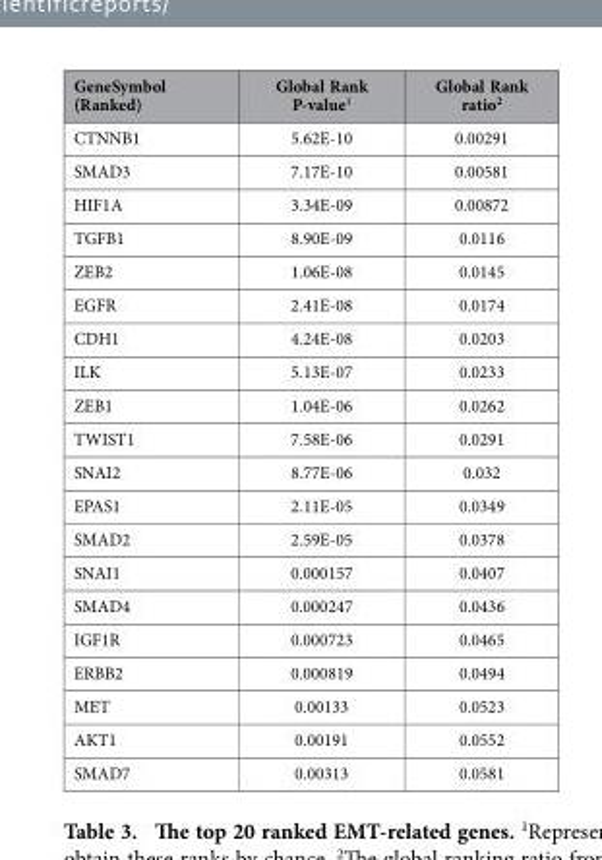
<table><thead><tr><td>GeneSymbol (Ranked)</td><td>Global Rank P-value<sup>1</sup></td><td>Global Rank ratio<sup>2</sup></td></tr></thead><tbody><tr><td>CTNNB1</td><td>5.62E-10</td><td>0.00291</td></tr><tr><td>SMAD3</td><td>7.17E-10</td><td>0.00581</td></tr><tr><td>HIF1A</td><td>3.34E-09</td><td>0.00872</td></tr><tr><td>TGFB1</td><td>8.90E-09</td><td>0.0116</td></tr><tr><td>ZEB2</td><td>1.06E-08</td><td>0.0145</td></tr><tr><td>EGFR</td><td>2.41E-08</td><td>0.0174</td></tr><tr><td>CDH1</td><td>4.24E-08</td><td>0.0203</td></tr><tr><td>ILK</td><td>5.13E-07</td><td>0.0233</td></tr><tr><td>ZEB1</td><td>1.04E-06</td><td>0.0262</td></tr><tr><td>TWIST1</td><td>7.58E-06</td><td>0.0291</td></tr><tr><td>SNAI2</td><td>8.77E-06</td><td>0.032</td></tr><tr><td>EPAS1</td><td>2.11E-05</td><td>0.0349</td></tr><tr><td>SMAD2</td><td>2.59E-05</td><td>0.0378</td></tr><tr><td>SNAI1</td><td>0.000157</td><td>0.0407</td></tr><tr><td>SMAD4</td><td>0.000247</td><td>0.0436</td></tr><tr><td>IGF1R</td><td>0.000723</td><td>0.0465</td></tr><tr><td>ERBB2</td><td>0.000819</td><td>0.0494</td></tr><tr><td>MET</td><td>0.00133</td><td>0.0523</td></tr><tr><td>AKT1</td><td>0.00191</td><td>0.0552</td></tr><tr><td>SMAD7</td><td>0.00313</td><td>0.0581</td></tr></tbody></table>